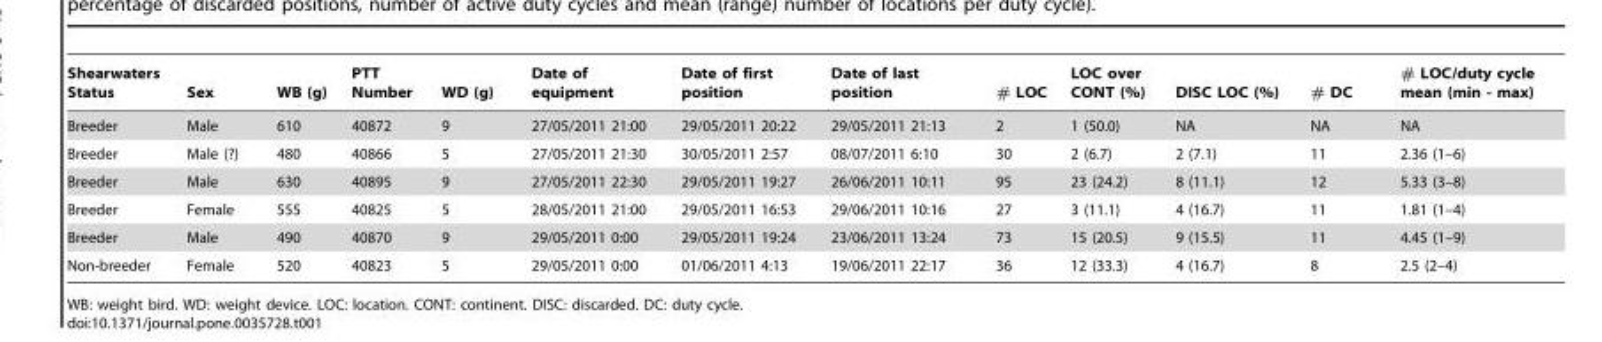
<table><thead><tr><td>Shearwaters Status</td><td>Sex</td><td>WB (g)</td><td>PTT Number</td><td>WD (g)</td><td>Date of equipment</td><td>Date of first position</td><td>Date of last position</td><td># LOC</td><td>LOC over CONT (%)</td><td>DISC LOC (%)</td><td># DC</td><td># LOC/duty cycle mean (min - max)</td></tr></thead><tbody><tr><td>Breeder</td><td>Male</td><td>610</td><td>40872</td><td>9</td><td>27/05/2011 21:00</td><td>29/05/2011 20:22</td><td>29/05/2011 21:13</td><td>2</td><td>1 (50.0)</td><td>NA</td><td>NA</td><td>NA</td></tr><tr><td>Breeder</td><td>Male (?)</td><td>480</td><td>40866</td><td>5</td><td>27/05/2011 21:30</td><td>30/05/2011 2:57</td><td>08/07/2011 6:10</td><td>30</td><td>2 (6.7)</td><td>2 (7.1)</td><td>11</td><td>2.36 (1–6)</td></tr><tr><td>Breeder</td><td>Male</td><td>630</td><td>40895</td><td>9</td><td>27/05/2011 22:30</td><td>29/05/2011 19:27</td><td>26/06/2011 10:11</td><td>95</td><td>23 (24.2)</td><td>8 (11.1)</td><td>12</td><td>5.33 (3–8)</td></tr><tr><td>Breeder</td><td>Female</td><td>555</td><td>40825</td><td>5</td><td>28/05/2011 21:00</td><td>29/05/2011 16:53</td><td>29/06/2011 10:16</td><td>27</td><td>3 (11.1)</td><td>4 (16.7)</td><td>11</td><td>1.81 (1–4)</td></tr><tr><td>Breeder</td><td>Male</td><td>490</td><td>40870</td><td>9</td><td>29/05/2011 0:00</td><td>29/05/2011 19:24</td><td>23/06/2011 13:24</td><td>73</td><td>15 (20.5)</td><td>9 (15.5)</td><td>11</td><td>4.45 (1–9)</td></tr><tr><td>Non-breeder</td><td>Female</td><td>520</td><td>40823</td><td>5</td><td>29/05/2011 0:00</td><td>01/06/2011 4:13</td><td>19/06/2011 22:17</td><td>36</td><td>12 (33.3)</td><td>4 (16.7)</td><td>8</td><td>2.5 (2–4)</td></tr></tbody></table>